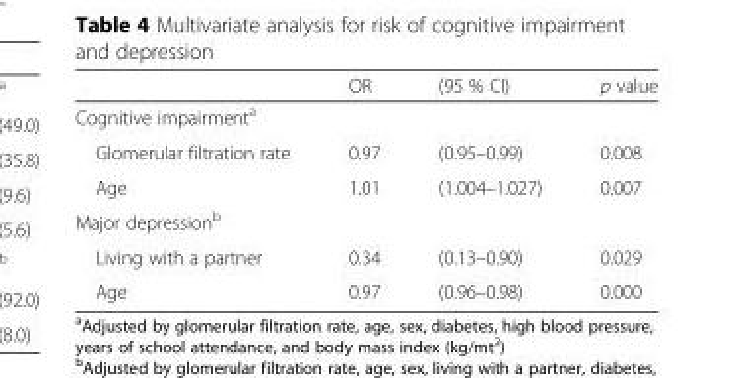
<table><thead><tr><td></td><td>OR</td><td>(95 % CI)</td><td>p value</td></tr></thead><tbody><tr><td colspan="4">Cognitive impairment<sup>a</sup></td></tr><tr><td>Glomerular filtration rate</td><td>0.97</td><td>(0.95–0.99)</td><td>0.008</td></tr><tr><td>Age</td><td>1.01</td><td>(1.004–1.027)</td><td>0.007</td></tr><tr><td colspan="4">Major depression<sup>b</sup></td></tr><tr><td>Living with a partner</td><td>0.34</td><td>(0.13–0.90)</td><td>0.029</td></tr><tr><td>Age</td><td>0.97</td><td>(0.96–0.98)</td><td>0.000</td></tr></tbody></table>